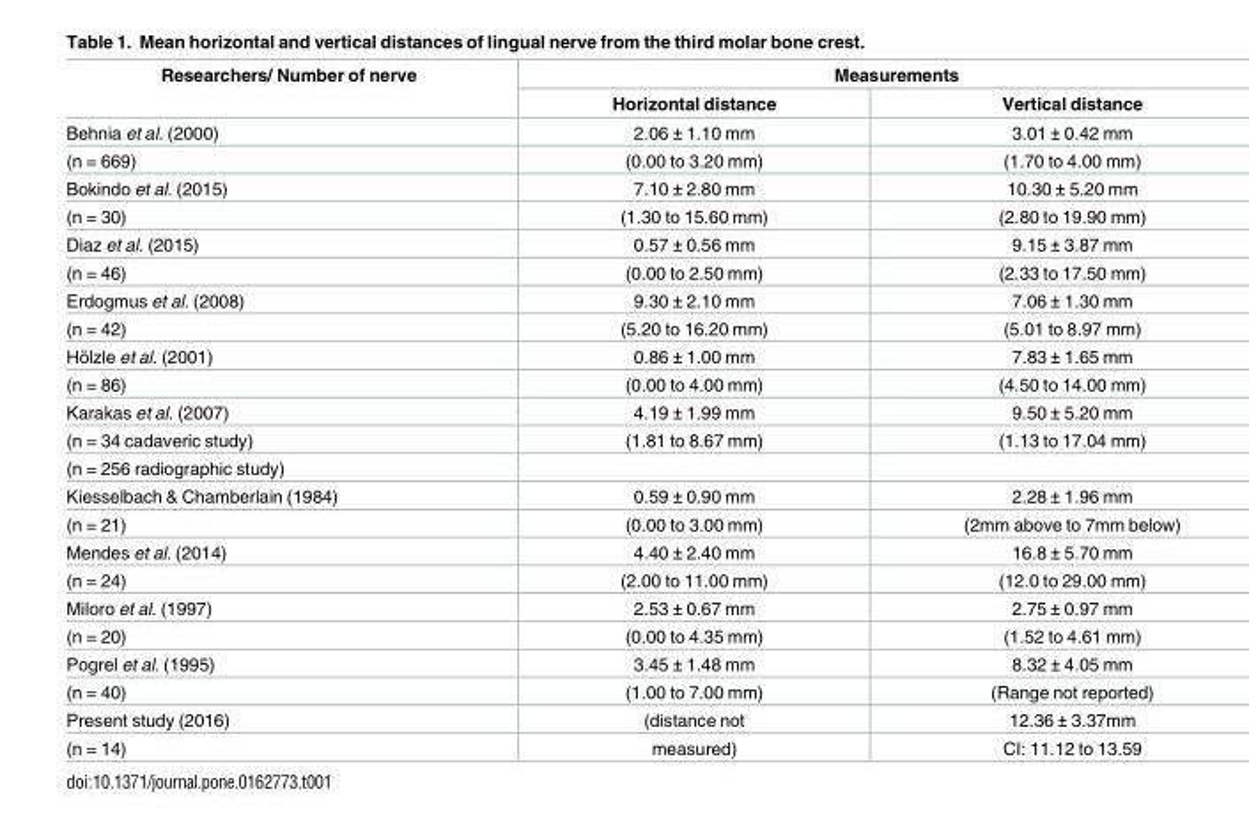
<table><thead><tr><td rowspan="2">Researchers/ Number of nerve</td><td colspan="2">Measurements</td></tr><tr><td>Horizontal distance</td><td>Vertical distance</td></tr></thead><tbody><tr><td>Behnia et al. (2000)</td><td>2.06 ± 1.10 mm</td><td>3.01 ± 0.42 mm</td></tr><tr><td>(n = 669)</td><td>(0.00 to 3.20 mm)</td><td>(1.70 to 4.00 mm)</td></tr><tr><td>Bokindo et al. (2015)</td><td>7.10 ± 2.80 mm</td><td>10.30 ± 5.20 mm</td></tr><tr><td>(n = 30)</td><td>(1.30 to 15.60 mm)</td><td>(2.80 to 19.90 mm)</td></tr><tr><td>Diaz et al. (2015)</td><td>0.57 ± 0.56 mm</td><td>9.15 ± 3.87 mm</td></tr><tr><td>(n = 46)</td><td>(0.00 to 2.50 mm)</td><td>(2.33 to 17.50 mm)</td></tr><tr><td>Erdogmus et al. (2008)</td><td>9.30 ± 2.10 mm</td><td>7.06 ± 1.30 mm</td></tr><tr><td>(n = 42)</td><td>(5.20 to 16.20 mm)</td><td>(5.01 to 8.97 mm)</td></tr><tr><td>Ho¨lzle et al. (2001)</td><td>0.86 ± 1.00 mm</td><td>7.83 ± 1.65 mm</td></tr><tr><td>(n = 86)</td><td>(0.00 to 4.00 mm)</td><td>(4.50 to 14.00 mm)</td></tr><tr><td>Karakas et al. (2007)</td><td>4.19 ± 1.99 mm</td><td>9.50 ± 5.20 mm</td></tr><tr><td>(n = 34 cadaveric study)</td><td>(1.81 to 8.67 mm)</td><td>(1.13 to 17.04 mm)</td></tr><tr><td colspan="3">(n = 256 radiographic study)</td></tr><tr><td>Kiesselbach &amp; Chamberlain (1984)</td><td>0.59 ± 0.90 mm</td><td>2.28 ± 1.96 mm</td></tr><tr><td>(n = 21)</td><td>(0.00 to 3.00 mm)</td><td>(2mm above to 7mm below)</td></tr><tr><td>Mendes et al. (2014)</td><td>4.40 ± 2.40 mm</td><td>16.8 ± 5.70 mm</td></tr><tr><td>(n = 24)</td><td>(2.00 to 11.00 mm)</td><td>(12.0 to 29.00 mm)</td></tr><tr><td>Miloro et al. (1997)</td><td>2.53 ± 0.67 mm</td><td>2.75 ± 0.97 mm</td></tr><tr><td>(n = 20)</td><td>(0.00 to 4.35 mm)</td><td>(1.52 to 4.61 mm)</td></tr><tr><td>Pogrel et al. (1995)</td><td>3.45 ± 1.48 mm</td><td>8.32 ± 4.05 mm</td></tr><tr><td>(n = 40)</td><td>(1.00 to 7.00 mm)</td><td>(Range not reported)</td></tr><tr><td>Present study (2016)</td><td>(distance not</td><td>12.36 ± 3.37mm</td></tr><tr><td>(n = 14)</td><td>measured)</td><td>CI: 11.12 to 13.59</td></tr></tbody></table>